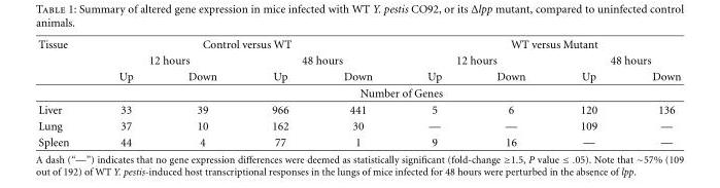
<table><thead><tr><td rowspan="3">Tissue</td><td colspan="4">Control versus WT</td><td colspan="4">WT versus Mutant</td></tr><tr><td colspan="2">12 hours</td><td colspan="2">48 hours</td><td colspan="2">12 hours</td><td colspan="2">48 hours</td></tr><tr><td>Up</td><td>Down</td><td>Up</td><td>Down</td><td>Up</td><td>Down</td><td>Up</td><td>Down</td></tr></thead><tbody><tr><td></td><td colspan="8">Number of Genes</td></tr><tr><td>Liver</td><td>33</td><td>39</td><td>966</td><td>441</td><td>5</td><td>6</td><td>120</td><td>136</td></tr><tr><td>Lung</td><td>37</td><td>10</td><td>162</td><td>30</td><td>—</td><td>—</td><td>109</td><td>—</td></tr><tr><td>Spleen</td><td>44</td><td>4</td><td>77</td><td>1</td><td>9</td><td>16</td><td>—</td><td>—</td></tr></tbody></table>